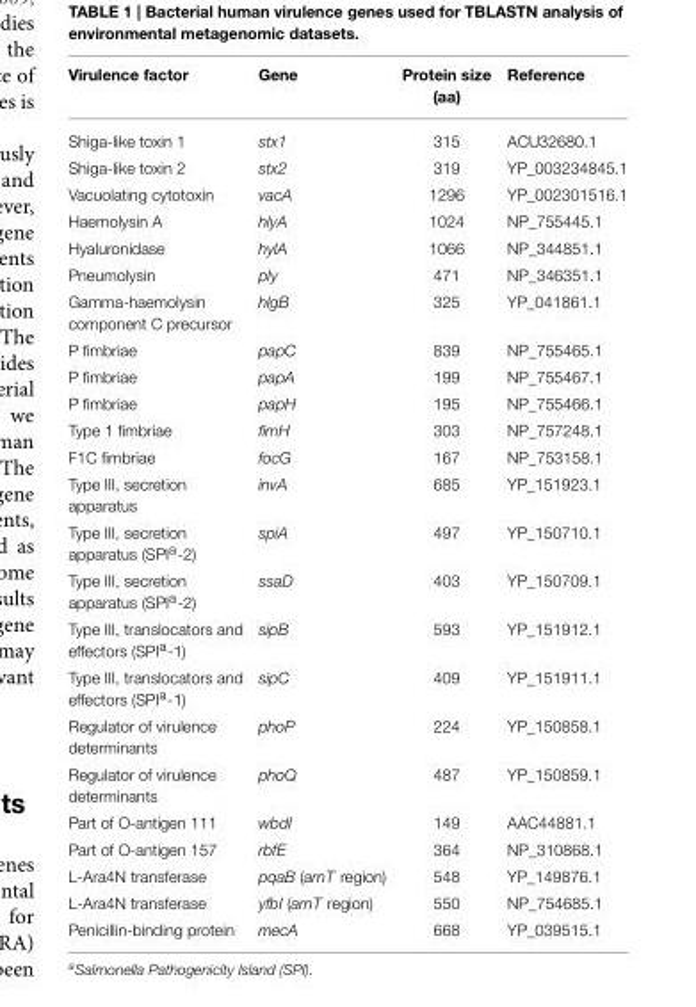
<table><thead><tr><td>Virulence factor</td><td>Gene</td><td>Protein size (aa)</td><td>Reference</td></tr></thead><tbody><tr><td>Shiga-like toxin 1</td><td>stx1</td><td>315</td><td>ACU32680.1</td></tr><tr><td>Shiga-like toxin 2</td><td>stx2</td><td>319</td><td>YP_003234845.1</td></tr><tr><td>Vacuolating cytotoxin</td><td>vacA</td><td>1296</td><td>YP_002301516.1</td></tr><tr><td>Haemolysin A</td><td>hlyA</td><td>1024</td><td>NP_755445.1</td></tr><tr><td>Hyaluronidase</td><td>hylA</td><td>1066</td><td>NP_344851.1</td></tr><tr><td>Pneumolysin</td><td>ply</td><td>471</td><td>NP_346351.1</td></tr><tr><td>Gamma-haemolysin component C precursor</td><td>hlgB</td><td>325</td><td>YP_041861.1</td></tr><tr><td>P fimbriae</td><td>papC</td><td>839</td><td>NP_755465.1</td></tr><tr><td>P fimbriae</td><td>papA</td><td>199</td><td>NP_755467.1</td></tr><tr><td>P fimbriae</td><td>papH</td><td>195</td><td>NP_755466.1</td></tr><tr><td>Type 1 fimbriae</td><td>fimH</td><td>303</td><td>NP_757248.1</td></tr><tr><td>F1C fimbriae</td><td>focG</td><td>167</td><td>NP_753158.1</td></tr><tr><td>Type III, secretion apparatus</td><td>invA</td><td>685</td><td>YP_151923.1</td></tr><tr><td>Type III, secretion apparatus (SPI<sup>a</sup>-2)</td><td>spiA</td><td>497</td><td>YP_150710.1</td></tr><tr><td>Type III, secretion apparatus (SPI<sup>a</sup>-2)</td><td>ssaD</td><td>403</td><td>YP_150709.1</td></tr><tr><td>Type III, translocators and effectors (SPI<sup>a</sup>-1)</td><td>sipB</td><td>593</td><td>YP_151912.1</td></tr><tr><td>Type III, translocators and effectors (SPI<sup>a</sup>-1)</td><td>sipC</td><td>409</td><td>YP_151911.1</td></tr><tr><td>Regulator of virulence determinants</td><td>phoP</td><td>224</td><td>YP_150858.1</td></tr><tr><td>Regulator of virulence determinants</td><td>phoQ</td><td>487</td><td>YP_150859.1</td></tr><tr><td>Part of O-antigen 111</td><td>wbdI</td><td>149</td><td>AAC44881.1</td></tr><tr><td>Part of O-antigen 157</td><td>rbfE</td><td>364</td><td>NP_310868.1</td></tr><tr><td>L-Ara4N transferase</td><td>pqaB (arnT region)</td><td>548</td><td>YP_149876.1</td></tr><tr><td>L-Ara4N transferase</td><td>yfbI (arnT region)</td><td>550</td><td>NP_754685.1</td></tr><tr><td>Penicillin-binding protein</td><td>mecA</td><td>668</td><td>YP_039515.1</td></tr></tbody></table>